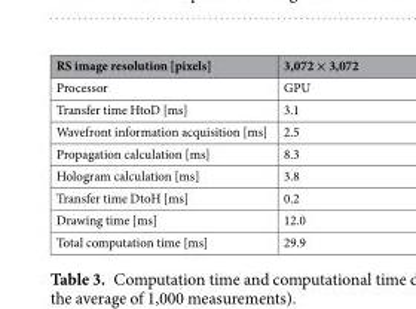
<table><thead><tr><td>RS image resolution [pixels]</td><td>3,072 × 3,072</td></tr></thead><tbody><tr><td>Processor</td><td>GPU</td></tr><tr><td>Transfer time HtoD [ms]</td><td>3.1</td></tr><tr><td>Wavefront information acquisition [ms]</td><td>2.5</td></tr><tr><td>Propagation calculation [ms]</td><td>8.3</td></tr><tr><td>Hologram calculation [ms]</td><td>3.8</td></tr><tr><td>Transfer time DtoH [ms]</td><td>0.2</td></tr><tr><td>Drawing time [ms]</td><td>12.0</td></tr><tr><td>Total computation time [ms]</td><td>29.9</td></tr></tbody></table>